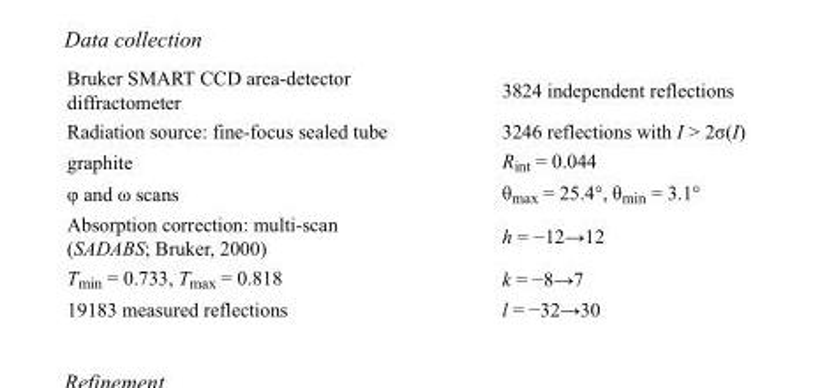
<table><tbody><tr><td>Bruker SMART CCD area-detector diffractometer</td><td>3824 independent reflections</td></tr><tr><td>Radiation source: fine-focus sealed tube</td><td>3246 reflections with I &gt; 2σ(I)</td></tr><tr><td>graphite</td><td>R<sub>int</sub> = 0.044</td></tr><tr><td>φ and ω scans</td><td>θ<sub>max</sub> = 25.4°, θ<sub>min</sub> = 3.1°</td></tr><tr><td>Absorption correction: multi-scan (SADABS; Bruker, 2000)</td><td>h = −12→12</td></tr><tr><td>T<sub>min</sub> = 0.733, T<sub>max</sub> = 0.818</td><td>k = −8→7</td></tr><tr><td>19183 measured reflections</td><td>l = −32→30</td></tr></tbody></table>